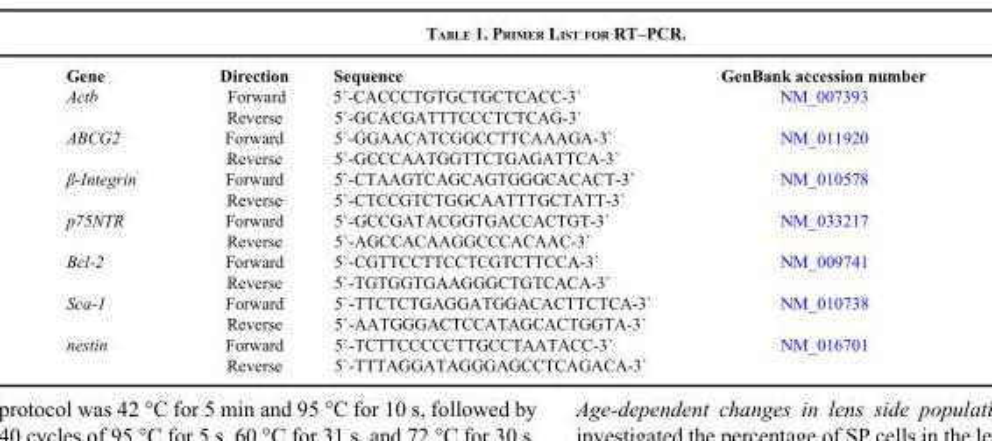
<table><thead><tr><td>Gene</td><td>Direction</td><td>Sequence</td><td>GenBank accession number</td></tr></thead><tbody><tr><td rowspan="2">Actb</td><td>Forward</td><td>5`-CACCCTGTGCTGCTCACC-3`</td><td>NM_007393</td></tr><tr><td>Reverse</td><td>5`-GCACGATTTCCCTCTCAG-3`</td><td></td></tr><tr><td rowspan="2">ABCG2</td><td>Forward</td><td>5`-GGAACATCGGCCTTCAAAGA-3`</td><td>NM_011920</td></tr><tr><td>Reverse</td><td>5`-GCCCAATGGTTCTGAGATTCA-3`</td><td></td></tr><tr><td rowspan="2">β-Integrin</td><td>Forward</td><td>5`-CTAAGTCAGCAGTGGGCACACT-3`</td><td>NM_010578</td></tr><tr><td>Reverse</td><td>5`-CTCCGTCTGGCAATTTGCTATT-3`</td><td></td></tr><tr><td rowspan="2">p75NTR</td><td>Forward</td><td>5`-GCCGATACGGTGACCACTGT-3`</td><td>NM_033217</td></tr><tr><td>Reverse</td><td>5`-AGCCACAAGGCCCACAAC-3`</td><td></td></tr><tr><td rowspan="2">Bcl-2</td><td>Forward</td><td>5`-CGTTCCTTCCTCGTCTTCCA-3`</td><td>NM_009741</td></tr><tr><td>Reverse</td><td>5`-TGTGGTGAAGGGCTGTCACA-3`</td><td></td></tr><tr><td rowspan="2">Sca-1</td><td>Forward</td><td>5`-TTCTCTGAGGATGGACACTTCTCA-3`</td><td>NM_010738</td></tr><tr><td>Reverse</td><td>5`-AATGGGACTCCATAGCACTGGTA-3`</td><td></td></tr><tr><td rowspan="2">nestin</td><td>Forward</td><td>5`-TCTTCCCCCTTGCCTAATACC-3`</td><td>NM_016701</td></tr><tr><td>Reverse</td><td>5`-TTTAGGATAGGGAGCCTCAGACA-3`</td><td></td></tr></tbody></table>